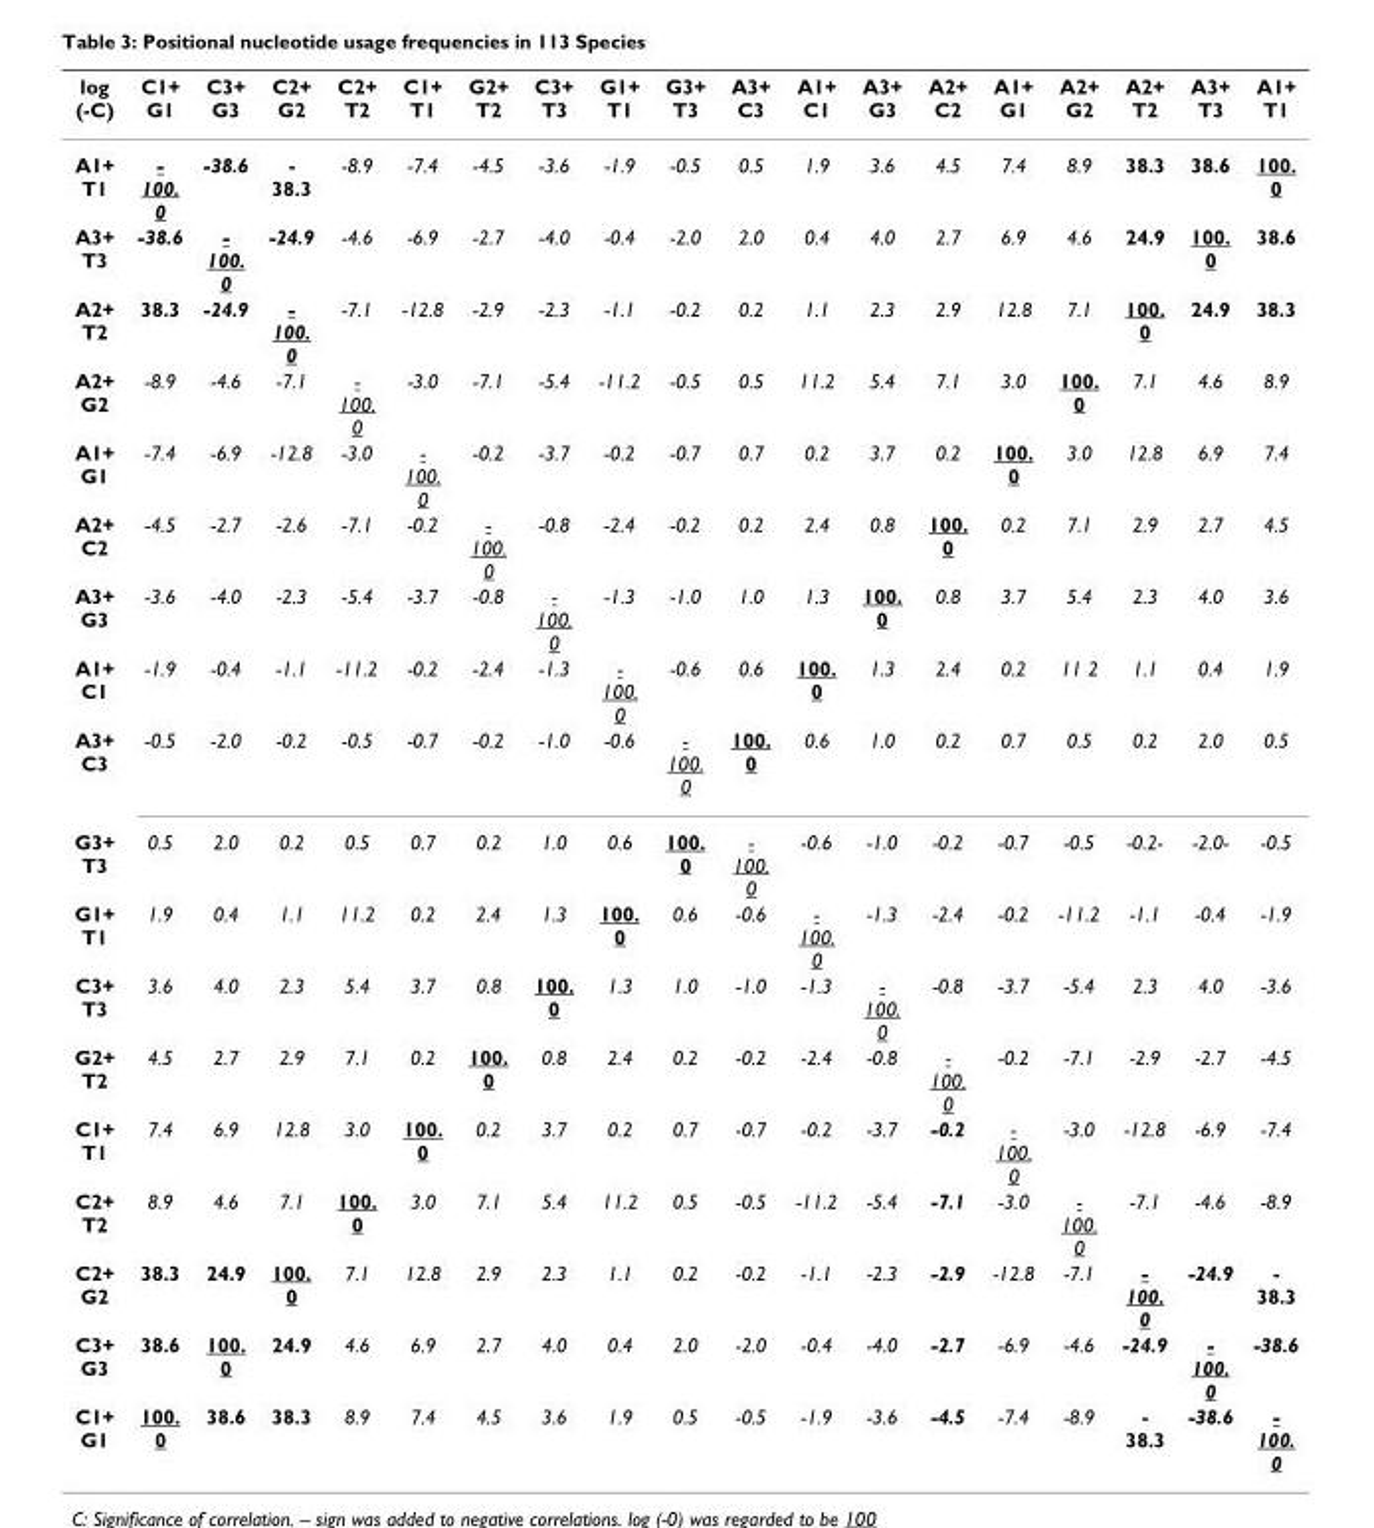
<table><thead><tr><td>log (-C)</td><td>C1+ G1</td><td>C3+ G3</td><td>C2+ G2</td><td>C2+ T2</td><td>C1+ T1</td><td>G2+ T2</td><td>C3+ T3</td><td>G1+ T1</td><td>G3+ T3</td><td>A3+ C3</td><td>A1+ C1</td><td>A3+ G3</td><td>A2+ C2</td><td>A1+ G1</td><td>A2+ G2</td><td>A2+ T2</td><td>A3+ T3</td><td>A1+ T1</td></tr></thead><tbody><tr><td>A1+ T1</td><td>- 100. 0</td><td>-38.6</td><td>- 38.3</td><td>-8.9</td><td>-7.4</td><td>-4.5</td><td>-3.6</td><td>-1.9</td><td>-0.5</td><td>0.5</td><td>1.9</td><td>3.6</td><td>4.5</td><td>7.4</td><td>8.9</td><td>38.3</td><td>38.6</td><td>100. 0</td></tr><tr><td>A3+ T3</td><td>-38.6</td><td>- 100. 0</td><td>-24.9</td><td>-4.6</td><td>-6.9</td><td>-2.7</td><td>-4.0</td><td>-0.4</td><td>-2.0</td><td>2.0</td><td>0.4</td><td>4.0</td><td>2.7</td><td>6.9</td><td>4.6</td><td>24.9</td><td>100. 0</td><td>38.6</td></tr><tr><td>A2+ T2</td><td>38.3</td><td>-24.9</td><td>- 100. 0</td><td>-7.1</td><td>-12.8</td><td>-2.9</td><td>-2.3</td><td>-1.1</td><td>-0.2</td><td>0.2</td><td>1.1</td><td>2.3</td><td>2.9</td><td>12.8</td><td>7.1</td><td>100. 0</td><td>24.9</td><td>38.3</td></tr><tr><td>A2+ G2</td><td>-8.9</td><td>-4.6</td><td>-7.1</td><td>- 100. 0</td><td>-3.0</td><td>-7.1</td><td>-5.4</td><td>-11.2</td><td>-0.5</td><td>0.5</td><td>11.2</td><td>5.4</td><td>7.1</td><td>3.0</td><td>100. 0</td><td>7.1</td><td>4.6</td><td>8.9</td></tr><tr><td>A1+ G1</td><td>-7.4</td><td>-6.9</td><td>-12.8</td><td>-3.0</td><td>- 100. 0</td><td>-0.2</td><td>-3.7</td><td>-0.2</td><td>-0.7</td><td>0.7</td><td>0.2</td><td>3.7</td><td>0.2</td><td>100. 0</td><td>3.0</td><td>12.8</td><td>6.9</td><td>7.4</td></tr><tr><td>A2+ C2</td><td>-4.5</td><td>-2.7</td><td>-2.6</td><td>-7.1</td><td>-0.2</td><td>- 100. 0</td><td>-0.8</td><td>-2.4</td><td>-0.2</td><td>0.2</td><td>2.4</td><td>0.8</td><td>100. 0</td><td>0.2</td><td>7.1</td><td>2.9</td><td>2.7</td><td>4.5</td></tr><tr><td>A3+ G3</td><td>-3.6</td><td>-4.0</td><td>-2.3</td><td>-5.4</td><td>-3.7</td><td>-0.8</td><td>- 100. 0</td><td>-1.3</td><td>-1.0</td><td>1.0</td><td>1.3</td><td>100. 0</td><td>0.8</td><td>3.7</td><td>5.4</td><td>2.3</td><td>4.0</td><td>3.6</td></tr><tr><td>A1+ C1</td><td>-1.9</td><td>-0.4</td><td>-1.1</td><td>-11.2</td><td>-0.2</td><td>-2.4</td><td>-1.3</td><td>- 100. 0</td><td>-0.6</td><td>0.6</td><td>100. 0</td><td>1.3</td><td>2.4</td><td>0.2</td><td>11 2</td><td>1.1</td><td>0.4</td><td>1.9</td></tr><tr><td>A3+ C3</td><td>-0.5</td><td>-2.0</td><td>-0.2</td><td>-0.5</td><td>-0.7</td><td>-0.2</td><td>-1.0</td><td>-0.6</td><td>- 100. 0</td><td>100. 0</td><td>0.6</td><td>1.0</td><td>0.2</td><td>0.7</td><td>0.5</td><td>0.2</td><td>2.0</td><td>0.5</td></tr><tr><td>G3+ T3</td><td>0.5</td><td>2.0</td><td>0.2</td><td>0.5</td><td>0.7</td><td>0.2</td><td>1.0</td><td>0.6</td><td>100. 0</td><td>- 100. 0</td><td>-0.6</td><td>-1.0</td><td>-0.2</td><td>-0.7</td><td>-0.5</td><td>-0.2-</td><td>-2.0-</td><td>-0.5</td></tr><tr><td>G1+ T1</td><td>1.9</td><td>0.4</td><td>1.1</td><td>11.2</td><td>0.2</td><td>2.4</td><td>1.3</td><td>100. 0</td><td>0.6</td><td>-0.6</td><td>- 100. 0</td><td>-1.3</td><td>-2.4</td><td>-0.2</td><td>-11.2</td><td>-1.1</td><td>-0.4</td><td>-1.9</td></tr><tr><td>C3+ T3</td><td>3.6</td><td>4.0</td><td>2.3</td><td>5.4</td><td>3.7</td><td>0.8</td><td>100. 0</td><td>1.3</td><td>1.0</td><td>-1.0</td><td>-1.3</td><td>- 100. 0</td><td>-0.8</td><td>-3.7</td><td>-5.4</td><td>2.3</td><td>4.0</td><td>-3.6</td></tr><tr><td>G2+ T2</td><td>4.5</td><td>2.7</td><td>2.9</td><td>7.1</td><td>0.2</td><td>100. 0</td><td>0.8</td><td>2.4</td><td>0.2</td><td>-0.2</td><td>-2.4</td><td>-0.8</td><td>- 100. 0</td><td>-0.2</td><td>-7.1</td><td>-2.9</td><td>-2.7</td><td>-4.5</td></tr><tr><td>C1+ T1</td><td>7.4</td><td>6.9</td><td>12.8</td><td>3.0</td><td>100. 0</td><td>0.2</td><td>3.7</td><td>0.2</td><td>0.7</td><td>-0.7</td><td>-0.2</td><td>-3.7</td><td>-0.2</td><td>- 100. 0</td><td>-3.0</td><td>-12.8</td><td>-6.9</td><td>-7.4</td></tr><tr><td>C2+ T2</td><td>8.9</td><td>4.6</td><td>7.1</td><td>100. 0</td><td>3.0</td><td>7.1</td><td>5.4</td><td>11.2</td><td>0.5</td><td>-0.5</td><td>-11.2</td><td>-5.4</td><td>-7.1</td><td>-3.0</td><td>- 100. 0</td><td>-7.1</td><td>-4.6</td><td>-8.9</td></tr><tr><td>C2+ G2</td><td>38.3</td><td>24.9</td><td>100. 0</td><td>7.1</td><td>12.8</td><td>2.9</td><td>2.3</td><td>1.1</td><td>0.2</td><td>-0.2</td><td>-1.1</td><td>-2.3</td><td>-2.9</td><td>-12.8</td><td>-7.1</td><td>- 100. 0</td><td>-24.9</td><td>- 38.3</td></tr><tr><td>C3+ G3</td><td>38.6</td><td>100. 0</td><td>24.9</td><td>4.6</td><td>6.9</td><td>2.7</td><td>4.0</td><td>0.4</td><td>2.0</td><td>-2.0</td><td>-0.4</td><td>-4.0</td><td>-2.7</td><td>-6.9</td><td>-4.6</td><td>-24.9</td><td>- 100. 0</td><td>-38.6</td></tr><tr><td>C1+ G1</td><td>100. 0</td><td>38.6</td><td>38.3</td><td>8.9</td><td>7.4</td><td>4.5</td><td>3.6</td><td>1.9</td><td>0.5</td><td>-0.5</td><td>-1.9</td><td>-3.6</td><td>-4.5</td><td>-7.4</td><td>-8.9</td><td>- 38.3</td><td>-38.6</td><td>- 100.</td></tr></tbody></table>